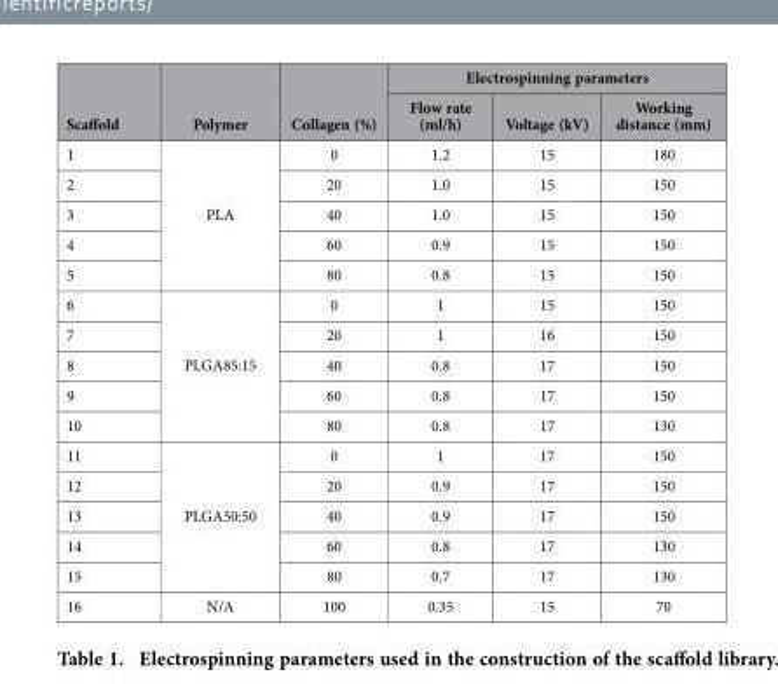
<table><thead><tr><td rowspan="2">Scaffold</td><td rowspan="2">Polymer</td><td rowspan="2">Collagen (%)</td><td colspan="3">Electrospinning parameters</td></tr><tr><td>Flow rate (ml/h)</td><td>Voltage (kV)</td><td>Working distance (mm)</td></tr></thead><tbody><tr><td>1</td><td rowspan="5">PLA</td><td>0</td><td>1.2</td><td>15</td><td>180</td></tr><tr><td>2</td><td>20</td><td>1.0</td><td>15</td><td>150</td></tr><tr><td>3</td><td>40</td><td>1.0</td><td>15</td><td>150</td></tr><tr><td>4</td><td>60</td><td>0.9</td><td>15</td><td>150</td></tr><tr><td>5</td><td>80</td><td>0.8</td><td>15</td><td>150</td></tr><tr><td>6</td><td rowspan="5">PLGA85:15</td><td>0</td><td>1</td><td>15</td><td>150</td></tr><tr><td>7</td><td>20</td><td>1</td><td>16</td><td>150</td></tr><tr><td>8</td><td>40</td><td>0.8</td><td>17</td><td>150</td></tr><tr><td>9</td><td>60</td><td>0.8</td><td>17</td><td>150</td></tr><tr><td>10</td><td>80</td><td>0.8</td><td>17</td><td>130</td></tr><tr><td>11</td><td rowspan="5">PLGA50:50</td><td>0</td><td>1</td><td>17</td><td>150</td></tr><tr><td>12</td><td>20</td><td>0.9</td><td>17</td><td>150</td></tr><tr><td>13</td><td>40</td><td>0.9</td><td>17</td><td>150</td></tr><tr><td>14</td><td>60</td><td>0.8</td><td>17</td><td>130</td></tr><tr><td>15</td><td>80</td><td>0.7</td><td>17</td><td>130</td></tr><tr><td>16</td><td>N/A</td><td>100</td><td>0.35</td><td>15</td><td>70</td></tr></tbody></table>